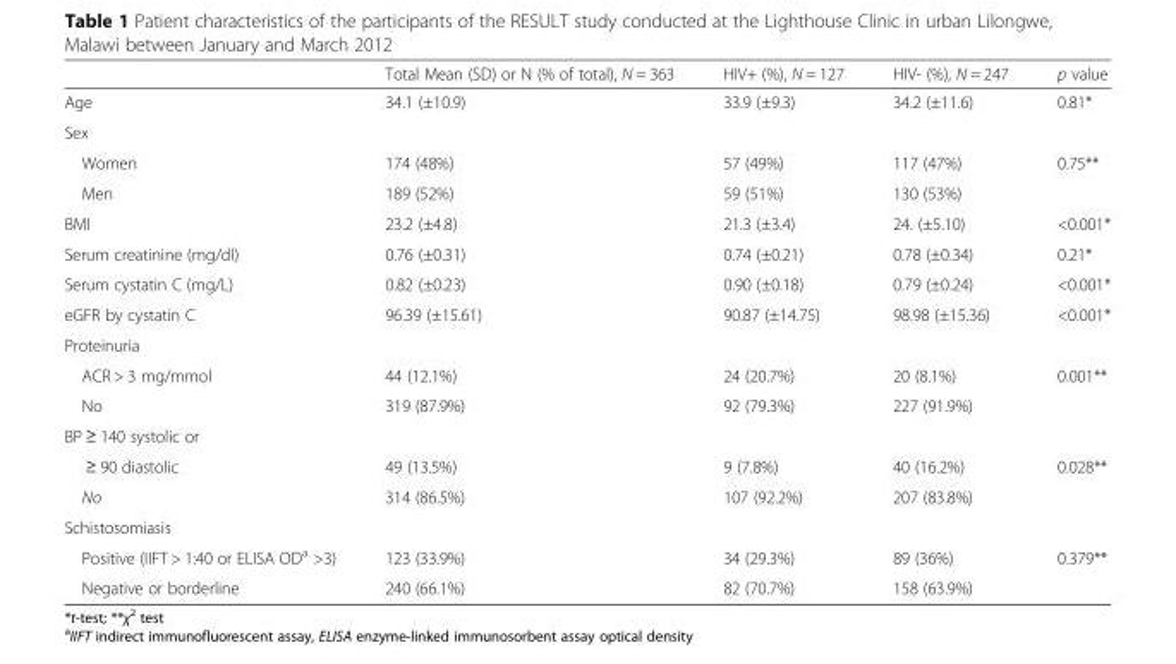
<table><thead><tr><td></td><td>Total Mean (SD) or N (% of total), N = 363</td><td>HIV+ (%), N = 127</td><td>HIV- (%), N = 247</td><td>p value</td></tr></thead><tbody><tr><td>Age</td><td>34.1 (±10.9)</td><td>33.9 (±9.3)</td><td>34.2 (±11.6)</td><td>0.81*</td></tr><tr><td colspan="5">Sex</td></tr><tr><td>Women</td><td>174 (48%)</td><td>57 (49%)</td><td>117 (47%)</td><td rowspan="2">0.75**</td></tr><tr><td>Men</td><td>189 (52%)</td><td>59 (51%)</td><td>130 (53%)</td></tr><tr><td>BMI</td><td>23.2 (±4.8)</td><td>21.3 (±3.4)</td><td>24. (±5.10)</td><td>&lt;0.001*</td></tr><tr><td>Serum creatinine (mg/dl)</td><td>0.76 (±0.31)</td><td>0.74 (±0.21)</td><td>0.78 (±0.34)</td><td>0.21*</td></tr><tr><td>Serum cystatin C (mg/L)</td><td>0.82 (±0.23)</td><td>0.90 (±0.18)</td><td>0.79 (±0.24)</td><td>&lt;0.001*</td></tr><tr><td>eGFR by cystatin C</td><td>96.39 (±15.61)</td><td>90.87 (±14.75)</td><td>98.98 (±15.36)</td><td>&lt;0.001*</td></tr><tr><td colspan="5">Proteinuria</td></tr><tr><td>ACR &gt; 3 mg/mmol</td><td>44 (12.1%)</td><td>24 (20.7%)</td><td>20 (8.1%)</td><td rowspan="2">0.001**</td></tr><tr><td>No</td><td>319 (87.9%)</td><td>92 (79.3%)</td><td>227 (91.9%)</td></tr><tr><td colspan="5">BP ≥ 140 systolic or</td></tr><tr><td>≥ 90 diastolic</td><td>49 (13.5%)</td><td>9 (7.8%)</td><td>40 (16.2%)</td><td rowspan="2">0.028**</td></tr><tr><td>No</td><td>314 (86.5%)</td><td>107 (92.2%)</td><td>207 (83.8%)</td></tr><tr><td colspan="5">Schistosomiasis</td></tr><tr><td>Positive (IIFT &gt; 1:40 or ELISA OD<sup>a</sup> &gt;3)</td><td>123 (33.9%)</td><td>34 (29.3%)</td><td>89 (36%)</td><td rowspan="2">0.379**</td></tr><tr><td>Negative or borderline</td><td>240 (66.1%)</td><td>82 (70.7%)</td><td>158 (63.9%)</td></tr></tbody></table>